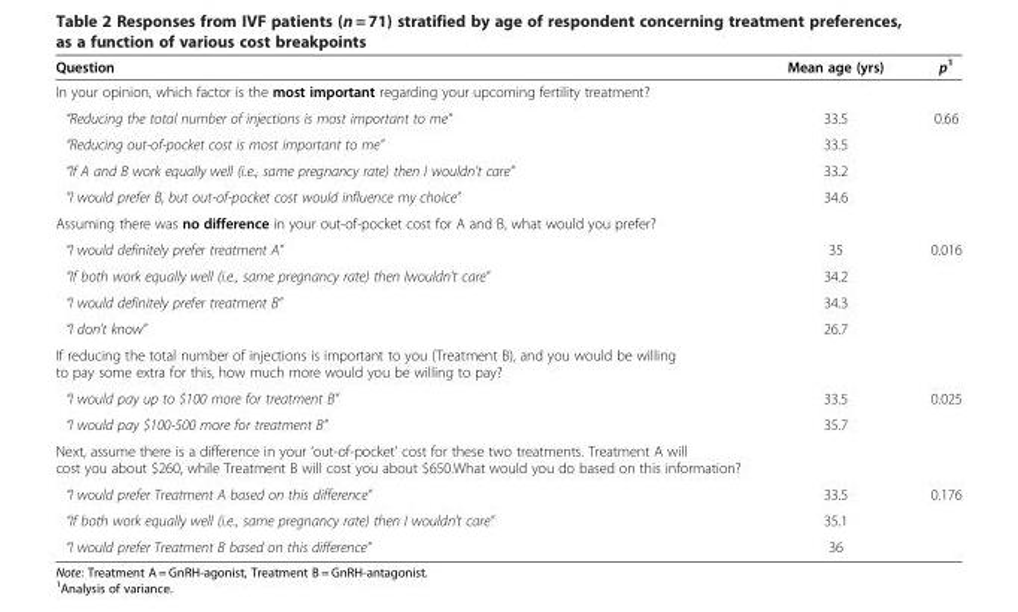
<table><thead><tr><td>Question</td><td>Mean age (yrs)</td><td>p<sup>1</sup></td></tr></thead><tbody><tr><td colspan="3">In your opinion, which factor is the most important regarding your upcoming fertility treatment?</td></tr><tr><td>“Reducing the total number of injections is most important to me”</td><td>33.5</td><td rowspan="4">0.66</td></tr><tr><td>“Reducing out-of-pocket cost is most important to me”</td><td>33.5</td></tr><tr><td>“If A and B work equally well (i.e., same pregnancy rate) then I wouldn’t care”</td><td>33.2</td></tr><tr><td>”I would prefer B, but out-of-pocket cost would influence my choice”</td><td>34.6</td></tr><tr><td colspan="3">Assuming there was no difference in your out-of-pocket cost for A and B, what would you prefer?</td></tr><tr><td>“I would definitely prefer treatment A”</td><td>35</td><td rowspan="4">0.016</td></tr><tr><td>“If both work equally well (i.e., same pregnancy rate) then Iwouldn’t care”</td><td>34.2</td></tr><tr><td>“I would definitely prefer treatment B”</td><td>34.3</td></tr><tr><td>“I don’t know”</td><td>26.7</td></tr><tr><td colspan="3">If reducing the total number of injections is important to you (Treatment B), and you would be willing to pay some extra for this, how much more would you be willing to pay?</td></tr><tr><td>“I would pay up to $100 more for treatment B”</td><td>33.5</td><td rowspan="2">0.025</td></tr><tr><td>“I would pay $100-500 more for treatment B”</td><td>35.7</td></tr><tr><td colspan="3">Next, assume there is a difference in your ‘out-of-pocket’ cost for these two treatments. Treatment A will cost you about $260, while Treatment B will cost you about $650.What would you do based on this information?</td></tr><tr><td>“I would prefer Treatment A based on this difference”</td><td>33.5</td><td>0.176</td></tr><tr><td>“If both work equally well (i.e., same pregnancy rate) then I wouldn’t care”</td><td>35.1</td><td></td></tr><tr><td>“I would prefer Treatment B based on this difference”</td><td>36</td><td></td></tr></tbody></table>